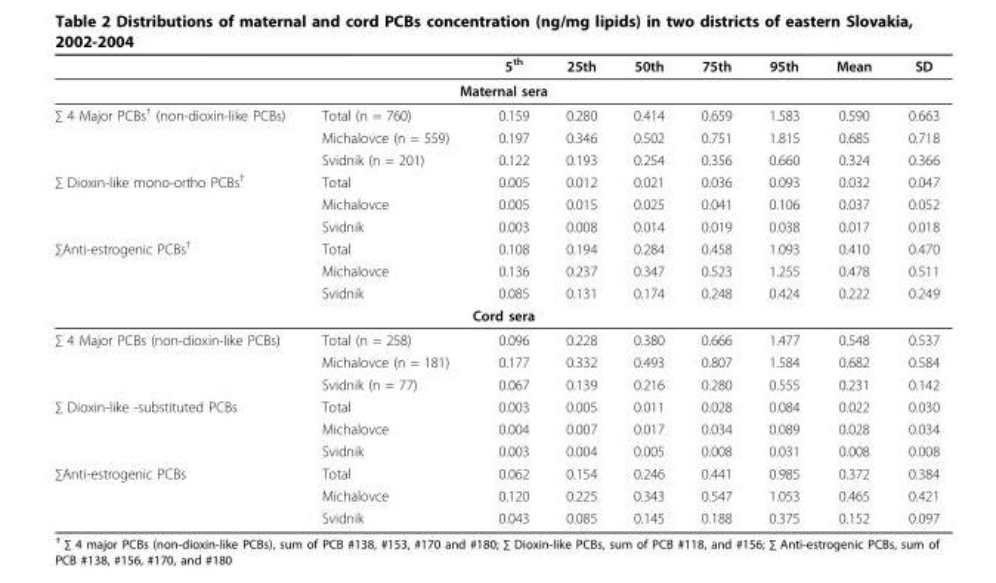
<table><thead><tr><td></td><td></td><td>5<sup>th</sup></td><td>25th</td><td>50th</td><td>75th</td><td>95th</td><td>Mean</td><td>SD</td></tr></thead><tbody><tr><td colspan="9">Maternal sera</td></tr><tr><td rowspan="3">∑ 4 Major PCBs<sup>†</sup> (non-dioxin-like PCBs)</td><td>Total (n = 760)</td><td>0.159</td><td>0.280</td><td>0.414</td><td>0.659</td><td>1.583</td><td>0.590</td><td>0.663</td></tr><tr><td>Michalovce (n = 559)</td><td>0.197</td><td>0.346</td><td>0.502</td><td>0.751</td><td>1.815</td><td>0.685</td><td>0.718</td></tr><tr><td>Svidnik (n = 201)</td><td>0.122</td><td>0.193</td><td>0.254</td><td>0.356</td><td>0.660</td><td>0.324</td><td>0.366</td></tr><tr><td rowspan="3">∑ Dioxin-like mono-ortho PCBs<sup>†</sup></td><td>Total</td><td>0.005</td><td>0.012</td><td>0.021</td><td>0.036</td><td>0.093</td><td>0.032</td><td>0.047</td></tr><tr><td>Michalovce</td><td>0.005</td><td>0.015</td><td>0.025</td><td>0.041</td><td>0.106</td><td>0.037</td><td>0.052</td></tr><tr><td>Svidnik</td><td>0.003</td><td>0.008</td><td>0.014</td><td>0.019</td><td>0.038</td><td>0.017</td><td>0.018</td></tr><tr><td rowspan="3">∑Anti-estrogenic PCBs<sup>†</sup></td><td>Total</td><td>0.108</td><td>0.194</td><td>0.284</td><td>0.458</td><td>1.093</td><td>0.410</td><td>0.470</td></tr><tr><td>Michalovce</td><td>0.136</td><td>0.237</td><td>0.347</td><td>0.523</td><td>1.255</td><td>0.478</td><td>0.511</td></tr><tr><td>Svidnik</td><td>0.085</td><td>0.131</td><td>0.174</td><td>0.248</td><td>0.424</td><td>0.222</td><td>0.249</td></tr><tr><td colspan="9">Cord sera</td></tr><tr><td rowspan="3">∑ 4 Major PCBs (non-dioxin-like PCBs)</td><td>Total (n = 258)</td><td>0.096</td><td>0.228</td><td>0.380</td><td>0.666</td><td>1.477</td><td>0.548</td><td>0.537</td></tr><tr><td>Michalovce (n = 181)</td><td>0.177</td><td>0.332</td><td>0.493</td><td>0.807</td><td>1.584</td><td>0.682</td><td>0.584</td></tr><tr><td>Svidnik (n = 77)</td><td>0.067</td><td>0.139</td><td>0.216</td><td>0.280</td><td>0.555</td><td>0.231</td><td>0.142</td></tr><tr><td rowspan="3">∑ Dioxin-like -substituted PCBs</td><td>Total</td><td>0.003</td><td>0.005</td><td>0.011</td><td>0.028</td><td>0.084</td><td>0.022</td><td>0.030</td></tr><tr><td>Michalovce</td><td>0.004</td><td>0.007</td><td>0.017</td><td>0.034</td><td>0.089</td><td>0.028</td><td>0.034</td></tr><tr><td>Svidnik</td><td>0.003</td><td>0.004</td><td>0.005</td><td>0.008</td><td>0.031</td><td>0.008</td><td>0.008</td></tr><tr><td rowspan="3">∑Anti-estrogenic PCBs</td><td>Total</td><td>0.062</td><td>0.154</td><td>0.246</td><td>0.441</td><td>0.985</td><td>0.372</td><td>0.384</td></tr><tr><td>Michalovce</td><td>0.120</td><td>0.225</td><td>0.343</td><td>0.547</td><td>1.053</td><td>0.465</td><td>0.421</td></tr><tr><td>Svidnik</td><td>0.043</td><td>0.085</td><td>0.145</td><td>0.188</td><td>0.375</td><td>0.152</td><td>0.097</td></tr></tbody></table>